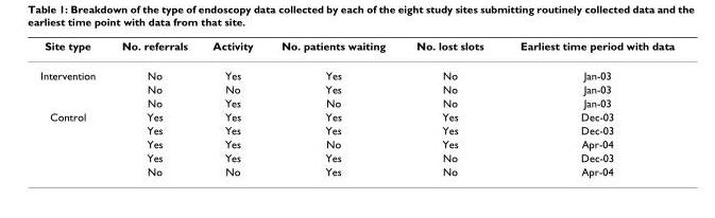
<table><thead><tr><td>Site type</td><td>No. referrals</td><td>Activity</td><td>No. patients waiting</td><td>No. lost slots</td><td>Earliest time period with data</td></tr></thead><tbody><tr><td rowspan="3">Intervention</td><td>No</td><td>Yes</td><td>Yes</td><td>No</td><td>Jan-03</td></tr><tr><td>No</td><td>No</td><td>Yes</td><td>No</td><td>Jan-03</td></tr><tr><td>No</td><td>Yes</td><td>No</td><td>No</td><td>Jan-03</td></tr><tr><td rowspan="5">Control</td><td>Yes</td><td>Yes</td><td>Yes</td><td>Yes</td><td>Dec-03</td></tr><tr><td>Yes</td><td>Yes</td><td>Yes</td><td>Yes</td><td>Dec-03</td></tr><tr><td>Yes</td><td>Yes</td><td>No</td><td>Yes</td><td>Apr-04</td></tr><tr><td>Yes</td><td>Yes</td><td>Yes</td><td>No</td><td>Dec-03</td></tr><tr><td>No</td><td>No</td><td>Yes</td><td>No</td><td>Apr-04</td></tr></tbody></table>